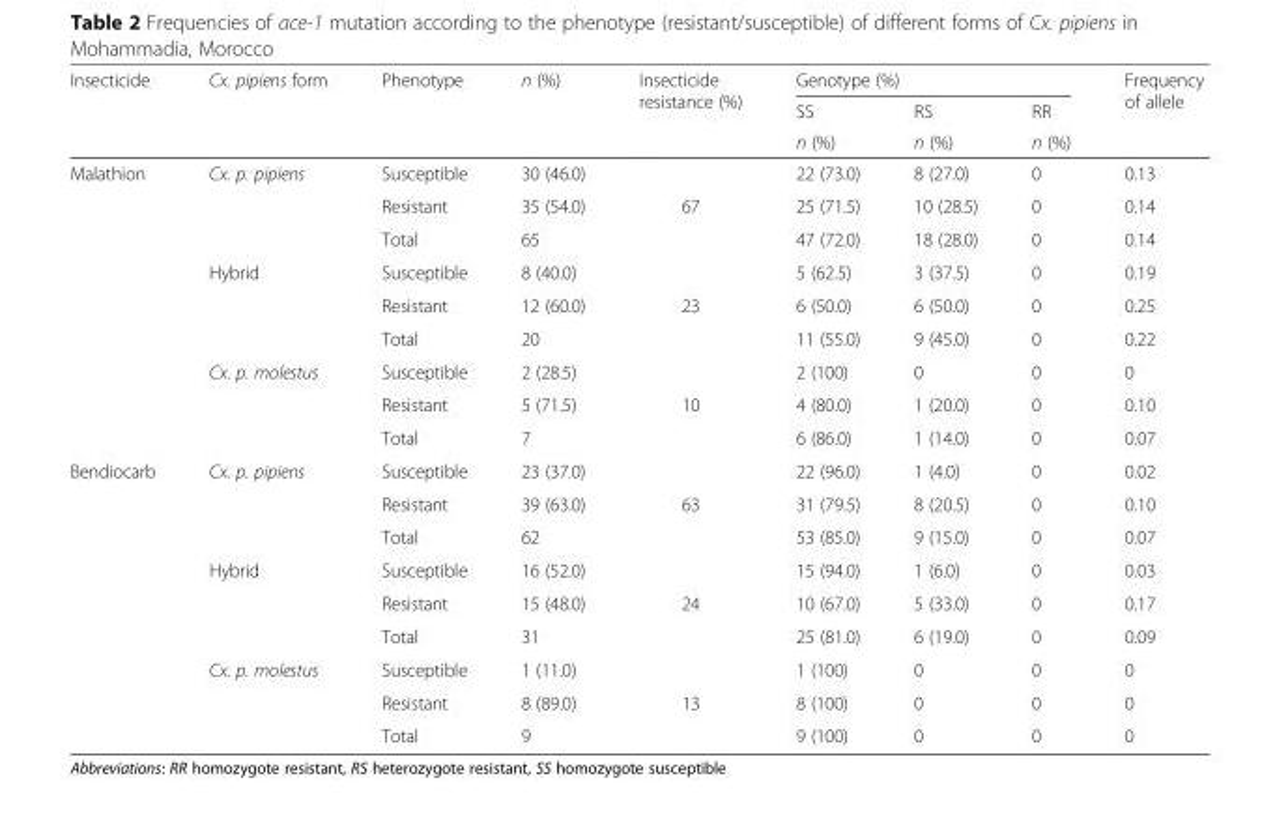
<table><thead><tr><td rowspan="3">Insecticide</td><td rowspan="3">Cx. pipiens form</td><td rowspan="3">Phenotype</td><td rowspan="3">n (%)</td><td rowspan="3">Insecticide resistance (%)</td><td colspan="3">Genotype (%)</td><td rowspan="3">Frequency of allele</td></tr><tr><td rowspan="2">SS n (%)</td><td rowspan="2">RS n (%)</td><td rowspan="2">RR n (%)</td></tr><tr></tr></thead><tbody><tr><td rowspan="9">Malathion</td><td rowspan="3">Cx. p. pipiens</td><td>Susceptible</td><td>30 (46.0)</td><td></td><td>22 (73.0)</td><td>8 (27.0)</td><td>0</td><td>0.13</td></tr><tr><td>Resistant</td><td>35 (54.0)</td><td>67</td><td>25 (71.5)</td><td>10 (28.5)</td><td>0</td><td>0.14</td></tr><tr><td>Total</td><td>65</td><td></td><td>47 (72.0)</td><td>18 (28.0)</td><td>0</td><td>0.14</td></tr><tr><td rowspan="3">Hybrid</td><td>Susceptible</td><td>8 (40.0)</td><td></td><td>5 (62.5)</td><td>3 (37.5)</td><td>0</td><td>0.19</td></tr><tr><td>Resistant</td><td>12 (60.0)</td><td>23</td><td>6 (50.0)</td><td>6 (50.0)</td><td>0</td><td>0.25</td></tr><tr><td>Total</td><td>20</td><td></td><td>11 (55.0)</td><td>9 (45.0)</td><td>0</td><td>0.22</td></tr><tr><td rowspan="3">Cx. p. molestus</td><td>Susceptible</td><td>2 (28.5)</td><td></td><td>2 (100)</td><td>0</td><td>0</td><td>0</td></tr><tr><td>Resistant</td><td>5 (71.5)</td><td>10</td><td>4 (80.0)</td><td>1 (20.0)</td><td>0</td><td>0.10</td></tr><tr><td>Total</td><td>7</td><td></td><td>6 (86.0)</td><td>1 (14.0)</td><td>0</td><td>0.07</td></tr><tr><td rowspan="9">Bendiocarb</td><td rowspan="3">Cx. p. pipiens</td><td>Susceptible</td><td>23 (37.0)</td><td></td><td>22 (96.0)</td><td>1 (4.0)</td><td>0</td><td>0.02</td></tr><tr><td>Resistant</td><td>39 (63.0)</td><td>63</td><td>31 (79.5)</td><td>8 (20.5)</td><td>0</td><td>0.10</td></tr><tr><td>Total</td><td>62</td><td></td><td>53 (85.0)</td><td>9 (15.0)</td><td>0</td><td>0.07</td></tr><tr><td rowspan="3">Hybrid</td><td>Susceptible</td><td>16 (52.0)</td><td></td><td>15 (94.0)</td><td>1 (6.0)</td><td>0</td><td>0.03</td></tr><tr><td>Resistant</td><td>15 (48.0)</td><td>24</td><td>10 (67.0)</td><td>5 (33.0)</td><td>0</td><td>0.17</td></tr><tr><td>Total</td><td>31</td><td></td><td>25 (81.0)</td><td>6 (19.0)</td><td>0</td><td>0.09</td></tr><tr><td rowspan="3">Cx. p. molestus</td><td>Susceptible</td><td>1 (11.0)</td><td></td><td>1 (100)</td><td>0</td><td>0</td><td>0</td></tr><tr><td>Resistant</td><td>8 (89.0)</td><td>13</td><td>8 (100)</td><td>0</td><td>0</td><td>0</td></tr><tr><td>Total</td><td>9</td><td></td><td>9 (100)</td><td>0</td><td>0</td><td>0</td></tr></tbody></table>